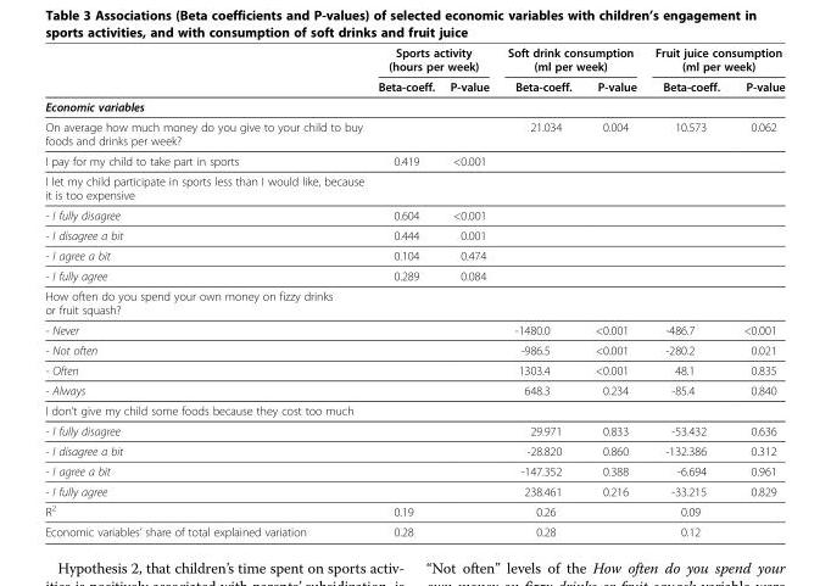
<table><thead><tr><td rowspan="2"></td><td colspan="2">Sports activity (hours per week)</td><td colspan="2">Soft drink consumption (ml per week)</td><td colspan="2">Fruit juice consumption (ml per week)</td></tr><tr><td>Beta-coeff.</td><td>P-value</td><td>Beta-coeff.</td><td>P-value</td><td>Beta-coeff.</td><td>P-value</td></tr></thead><tbody><tr><td colspan="7">Economic variables</td></tr><tr><td>On average how much money do you give to your child to buy foods and drinks per week?</td><td></td><td></td><td>21.034</td><td>0.004</td><td>10.573</td><td>0.062</td></tr><tr><td>I pay for my child to take part in sports</td><td>0.419</td><td>&lt;0.001</td><td></td><td></td><td></td><td></td></tr><tr><td colspan="7">I let my child participate in sports less than I would like, because it is too expensive</td></tr><tr><td>- I fully disagree</td><td>0.604</td><td>&lt;0.001</td><td></td><td></td><td></td><td></td></tr><tr><td>- I disagree a bit</td><td>0.444</td><td>0.001</td><td></td><td></td><td></td><td></td></tr><tr><td>- I agree a bit</td><td>0.104</td><td>0.474</td><td></td><td></td><td></td><td></td></tr><tr><td>- I fully agree</td><td>0.289</td><td>0.084</td><td></td><td></td><td></td><td></td></tr><tr><td colspan="7">How often do you spend your own money on fizzy drinks or fruit squash?</td></tr><tr><td>- Never</td><td></td><td></td><td>-1480.0</td><td>&lt;0.001</td><td>-486.7</td><td>&lt;0.001</td></tr><tr><td>- Not often</td><td></td><td></td><td>-986.5</td><td>&lt;0.001</td><td>-280.2</td><td>0.021</td></tr><tr><td>- Often</td><td></td><td></td><td>1303.4</td><td>&lt;0.001</td><td>48.1</td><td>0.835</td></tr><tr><td>- Always</td><td></td><td></td><td>648.3</td><td>0.234</td><td>-85.4</td><td>0.840</td></tr><tr><td colspan="7">I don’t give my child some foods because they cost too much</td></tr><tr><td>- I fully disagree</td><td></td><td></td><td>29.971</td><td>0.833</td><td>-53.432</td><td>0.636</td></tr><tr><td>- I disagree a bit</td><td></td><td></td><td>-28.820</td><td>0.860</td><td>-132.386</td><td>0.312</td></tr><tr><td>- I agree a bit</td><td></td><td></td><td>-147.352</td><td>0.388</td><td>-6.694</td><td>0.961</td></tr><tr><td>- I fully agree</td><td></td><td></td><td>238.461</td><td>0.216</td><td>-33.215</td><td>0.829</td></tr><tr><td>R<sup>2</sup></td><td>0.19</td><td></td><td>0.26</td><td></td><td>0.09</td><td></td></tr><tr><td>Economic variables’ share of total explained variation</td><td>0.28</td><td></td><td>0.28</td><td></td><td>0.12</td><td></td></tr></tbody></table>